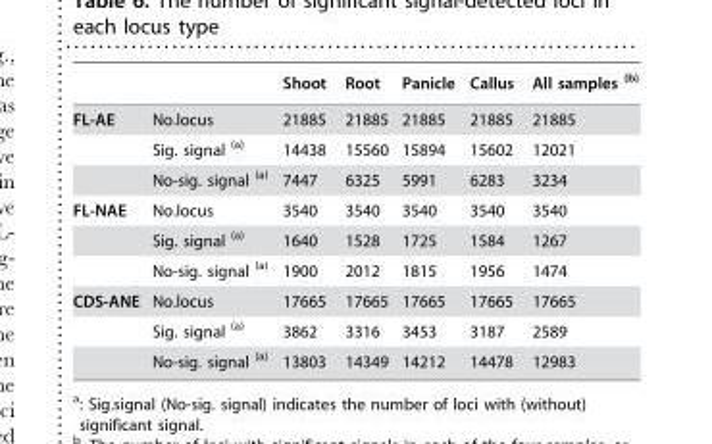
<table><thead><tr><td></td><td></td><td>Shoot</td><td>Root</td><td>Panicle</td><td>Callus</td><td>All samples (b)</td></tr></thead><tbody><tr><td rowspan="3">FL-AE</td><td>No.locus</td><td>21885</td><td>21885</td><td>21885</td><td>21885</td><td>21885</td></tr><tr><td>Sig. signal (a)</td><td>14438</td><td>15560</td><td>15894</td><td>15602</td><td>12021</td></tr><tr><td>No-sig. signal (a)</td><td>7447</td><td>6325</td><td>5991</td><td>6283</td><td>3234</td></tr><tr><td rowspan="3">FL-NAE</td><td>No.locus</td><td>3540</td><td>3540</td><td>3540</td><td>3540</td><td>3540</td></tr><tr><td>Sig. signal (a)</td><td>1640</td><td>1528</td><td>1725</td><td>1584</td><td>1267</td></tr><tr><td>No-sig. signal (a)</td><td>1900</td><td>2012</td><td>1815</td><td>1956</td><td>1474</td></tr><tr><td rowspan="3">CDS-ANE</td><td>No.locus</td><td>17665</td><td>17665</td><td>17665</td><td>17665</td><td>17665</td></tr><tr><td>Sig. signal (a)</td><td>3862</td><td>3316</td><td>3453</td><td>3187</td><td>2589</td></tr><tr><td>No-sig. signal (a)</td><td>13803</td><td>14349</td><td>14212</td><td>14478</td><td>12983</td></tr></tbody></table>